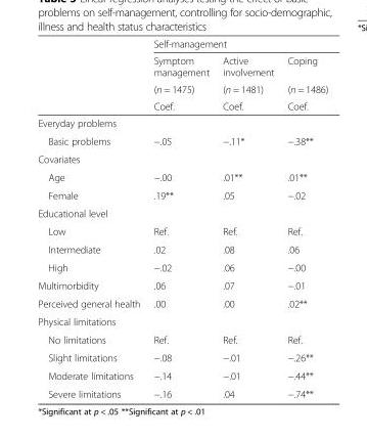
<table><thead><tr><td rowspan="4"></td><td colspan="3">Self-management</td></tr><tr><td rowspan="3">Symptom management (n = 1475) Coef.</td><td rowspan="3">Active involvement (n = 1481) Coef.</td><td rowspan="3">Coping (n = 1486) Coef.</td></tr><tr></tr><tr></tr></thead><tbody><tr><td colspan="4">Everyday problems</td></tr><tr><td>Basic problems</td><td>−.05</td><td>−.11*</td><td>−.38**</td></tr><tr><td colspan="4">Covariates</td></tr><tr><td>Age</td><td>−.00</td><td>.01**</td><td>.01**</td></tr><tr><td>Female</td><td>.19**</td><td>.05</td><td>−.02</td></tr><tr><td colspan="4">Educational level</td></tr><tr><td>Low</td><td>Ref.</td><td>Ref.</td><td>Ref.</td></tr><tr><td>Intermediate</td><td>.02</td><td>.08</td><td>.06</td></tr><tr><td>High</td><td>−.02</td><td>.06</td><td>−.00</td></tr><tr><td>Multimorbidity</td><td>.06</td><td>.07</td><td>−.01</td></tr><tr><td>Perceived general health</td><td>.00</td><td>.00</td><td>.02**</td></tr><tr><td colspan="4">Physical limitations</td></tr><tr><td>No limitations</td><td>Ref.</td><td>Ref.</td><td>Ref.</td></tr><tr><td>Slight limitations</td><td>−.08</td><td>−.01</td><td>−.26**</td></tr><tr><td>Moderate limitations</td><td>−.14</td><td>−.01</td><td>−.44**</td></tr><tr><td>Severe limitations</td><td>−.16</td><td>.04</td><td>−.74**</td></tr></tbody></table>